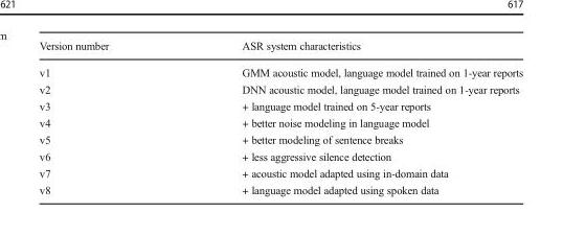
<table><thead><tr><td>Version number</td><td>ASR system characteristics</td></tr></thead><tbody><tr><td>v1</td><td>GMM acoustic model, language model trained on 1-year reports</td></tr><tr><td>v2</td><td>DNN acoustic model, language model trained on 1-year reports</td></tr><tr><td>v3</td><td>+ language model trained on 5-year reports</td></tr><tr><td>v4</td><td>+ better noise modeling in language model</td></tr><tr><td>v5</td><td>+ better modeling of sentence breaks</td></tr><tr><td>v6</td><td>+ less aggressive silence detection</td></tr><tr><td>v7</td><td>+ acoustic model adapted using in-domain data</td></tr><tr><td>v8</td><td>+ language model adapted using spoken data</td></tr></tbody></table>